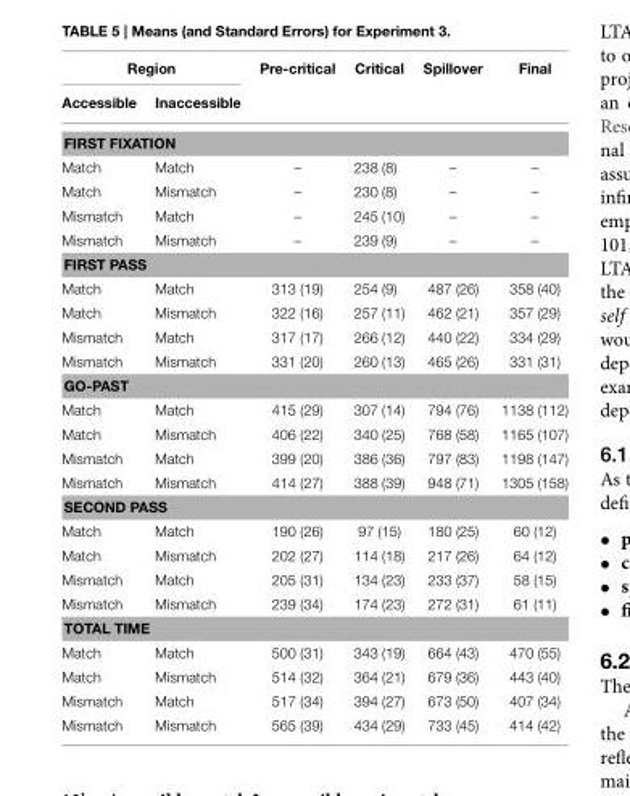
<table><thead><tr><td colspan="2">Region</td><td rowspan="2">Pre-critical</td><td rowspan="2">Critical</td><td rowspan="2">Spillover</td><td rowspan="2">Final</td></tr><tr><td>Accessible</td><td>Inaccessible</td></tr></thead><tbody><tr><td colspan="6">FIRST FIXATION</td></tr><tr><td>Match</td><td>Match</td><td>–</td><td>238 (8)</td><td>–</td><td>–</td></tr><tr><td>Match</td><td>Mismatch</td><td>–</td><td>230 (8)</td><td>–</td><td>–</td></tr><tr><td>Mismatch</td><td>Match</td><td>–</td><td>245 (10)</td><td>–</td><td>–</td></tr><tr><td>Mismatch</td><td>Mismatch</td><td>–</td><td>239 (9)</td><td>–</td><td>–</td></tr><tr><td colspan="6">FIRST PASS</td></tr><tr><td>Match</td><td>Match</td><td>313 (19)</td><td>254 (9)</td><td>487 (26)</td><td>358 (40)</td></tr><tr><td>Match</td><td>Mismatch</td><td>322 (16)</td><td>257 (11)</td><td>462 (21)</td><td>357 (29)</td></tr><tr><td>Mismatch</td><td>Match</td><td>317 (17)</td><td>266 (12)</td><td>440 (22)</td><td>334 (29)</td></tr><tr><td>Mismatch</td><td>Mismatch</td><td>331 (20)</td><td>260 (13)</td><td>465 (26)</td><td>331 (31)</td></tr><tr><td colspan="6">GO-PAST</td></tr><tr><td>Match</td><td>Match</td><td>415 (29)</td><td>307 (14)</td><td>794 (76)</td><td>1138 (112)</td></tr><tr><td>Match</td><td>Mismatch</td><td>406 (22)</td><td>340 (25)</td><td>768 (58)</td><td>1165 (107)</td></tr><tr><td>Mismatch</td><td>Match</td><td>399 (20)</td><td>386 (36)</td><td>797 (83)</td><td>1198 (147)</td></tr><tr><td>Mismatch</td><td>Mismatch</td><td>414 (27)</td><td>388 (39)</td><td>948 (71)</td><td>1305 (158)</td></tr><tr><td colspan="6">SECOND PASS</td></tr><tr><td>Match</td><td>Match</td><td>190 (26)</td><td>97 (15)</td><td>180 (25)</td><td>60 (12)</td></tr><tr><td>Match</td><td>Mismatch</td><td>202 (27)</td><td>114 (18)</td><td>217 (26)</td><td>64 (12)</td></tr><tr><td>Mismatch</td><td>Match</td><td>205 (31)</td><td>134 (23)</td><td>233 (37)</td><td>58 (15)</td></tr><tr><td>Mismatch</td><td>Mismatch</td><td>239 (34)</td><td>174 (23)</td><td>272 (31)</td><td>61 (11)</td></tr><tr><td colspan="6">TOTAL TIME</td></tr><tr><td>Match</td><td>Match</td><td>500 (31)</td><td>343 (19)</td><td>664 (43)</td><td>470 (55)</td></tr><tr><td>Match</td><td>Mismatch</td><td>514 (32)</td><td>364 (21)</td><td>679 (36)</td><td>443 (40)</td></tr><tr><td>Mismatch</td><td>Match</td><td>517 (34)</td><td>394 (27)</td><td>673 (50)</td><td>407 (34)</td></tr><tr><td>Mismatch</td><td>Mismatch</td><td>565 (39)</td><td>434 (29)</td><td>733 (45)</td><td>414 (42)</td></tr></tbody></table>